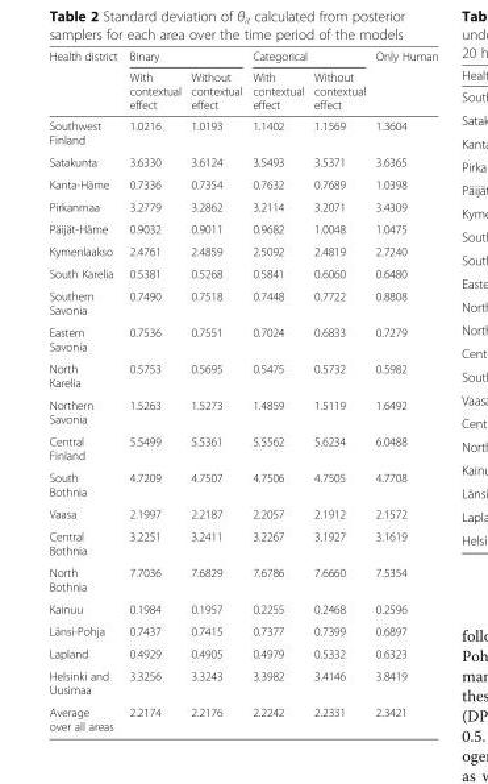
<table><thead><tr><td rowspan="2">Health district</td><td colspan="2">Binary</td><td colspan="2">Categorical</td><td rowspan="2">Only Human</td></tr><tr><td>With contextual effect</td><td>Without contextual effect</td><td>With contextual effect</td><td>Without contextual effect</td></tr></thead><tbody><tr><td>Southwest Finland</td><td>1.0216</td><td>1.0193</td><td>1.1402</td><td>1.1569</td><td>1.3604</td></tr><tr><td>Satakunta</td><td>3.6330</td><td>3.6124</td><td>3.5493</td><td>3.5371</td><td>3.6365</td></tr><tr><td>Kanta-Häme</td><td>0.7336</td><td>0.7354</td><td>0.7632</td><td>0.7689</td><td>1.0398</td></tr><tr><td>Pirkanmaa</td><td>3.2779</td><td>3.2862</td><td>3.2114</td><td>3.2071</td><td>3.4309</td></tr><tr><td>Päijät-Häme</td><td>0.9032</td><td>0.9011</td><td>0.9682</td><td>1.0048</td><td>1.0475</td></tr><tr><td>Kymenlaakso</td><td>2.4761</td><td>2.4859</td><td>2.5092</td><td>2.4819</td><td>2.7240</td></tr><tr><td>South Karelia</td><td>0.5381</td><td>0.5268</td><td>0.5841</td><td>0.6060</td><td>0.6480</td></tr><tr><td>Southern Savonia</td><td>0.7490</td><td>0.7518</td><td>0.7448</td><td>0.7722</td><td>0.8808</td></tr><tr><td>Eastern Savonia</td><td>0.7536</td><td>0.7551</td><td>0.7024</td><td>0.6833</td><td>0.7279</td></tr><tr><td>North Karelia</td><td>0.5753</td><td>0.5695</td><td>0.5475</td><td>0.5732</td><td>0.5982</td></tr><tr><td>Northern Savonia</td><td>1.5263</td><td>1.5273</td><td>1.4859</td><td>1.5119</td><td>1.6492</td></tr><tr><td>Central Finland</td><td>5.5499</td><td>5.5361</td><td>5.5562</td><td>5.6234</td><td>6.0488</td></tr><tr><td>South Bothnia</td><td>4.7209</td><td>4.7507</td><td>4.7506</td><td>4.7505</td><td>4.7708</td></tr><tr><td>Vaasa</td><td>2.1997</td><td>2.2187</td><td>2.2057</td><td>2.1912</td><td>2.1572</td></tr><tr><td>Central Bothnia</td><td>3.2251</td><td>3.2411</td><td>3.2267</td><td>3.1927</td><td>3.1619</td></tr><tr><td>North Bothnia</td><td>7.7036</td><td>7.6829</td><td>7.6786</td><td>7.6660</td><td>7.5354</td></tr><tr><td>Kainuu</td><td>0.1984</td><td>0.1957</td><td>0.2255</td><td>0.2468</td><td>0.2596</td></tr><tr><td>Länsi-Pohja</td><td>0.7437</td><td>0.7415</td><td>0.7377</td><td>0.7399</td><td>0.6897</td></tr><tr><td>Lapland</td><td>0.4929</td><td>0.4905</td><td>0.4979</td><td>0.5332</td><td>0.6323</td></tr><tr><td>Helsinki and Uusimaa</td><td>3.3256</td><td>3.3243</td><td>3.3982</td><td>3.4146</td><td>3.8419</td></tr><tr><td>Average over all areas</td><td>2.2174</td><td>2.2176</td><td>2.2242</td><td>2.2331</td><td>2.3421</td></tr></tbody></table>